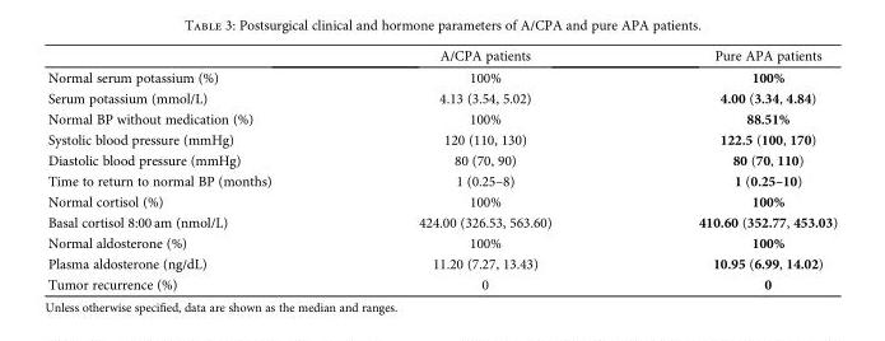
<table><thead><tr><td></td><td>A/CPA patients</td><td>Pure APA patients</td></tr></thead><tbody><tr><td>Normal serum potassium (%)</td><td>100%</td><td>100%</td></tr><tr><td>Serum potassium (mmol/L)</td><td>4.13 (3.54, 5.02)</td><td>4.00 (3.34, 4.84)</td></tr><tr><td>Normal BP without medication (%)</td><td>100%</td><td>88.51%</td></tr><tr><td>Systolic blood pressure (mmHg)</td><td>120 (110, 130)</td><td>122.5 (100, 170)</td></tr><tr><td>Diastolic blood pressure (mmHg)</td><td>80 (70, 90)</td><td>80 (70, 110)</td></tr><tr><td>Time to return to normal BP (months)</td><td>1 (0.25–8)</td><td>1 (0.25–10)</td></tr><tr><td>Normal cortisol (%)</td><td>100%</td><td>100%</td></tr><tr><td>Basal cortisol 8:00 am (nmol/L)</td><td>424.00 (326.53, 563.60)</td><td>410.60 (352.77, 453.03)</td></tr><tr><td>Normal aldosterone (%)</td><td>100%</td><td>100%</td></tr><tr><td>Plasma aldosterone (ng/dL)</td><td>11.20 (7.27, 13.43)</td><td>10.95 (6.99, 14.02)</td></tr><tr><td>Tumor recurrence (%)</td><td>0</td><td>0</td></tr></tbody></table>